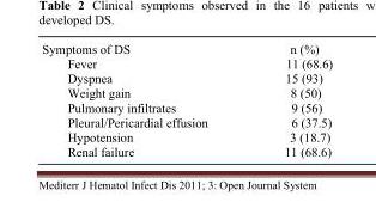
<table><tbody><tr><td>Symptoms of DS</td><td>n (%)</td></tr><tr><td>Fever</td><td>11 (68.6)</td></tr><tr><td>Dyspnea</td><td>15 (93)</td></tr><tr><td>Weight gain</td><td>8 (50)</td></tr><tr><td>Pulmonary infiltrates</td><td>9 (56)</td></tr><tr><td>Pleural/Pericardial effusion</td><td>6 (37.5)</td></tr><tr><td>Hypotension</td><td>3 (18.7)</td></tr><tr><td>Renal failure</td><td>11 (68.6)</td></tr></tbody></table>